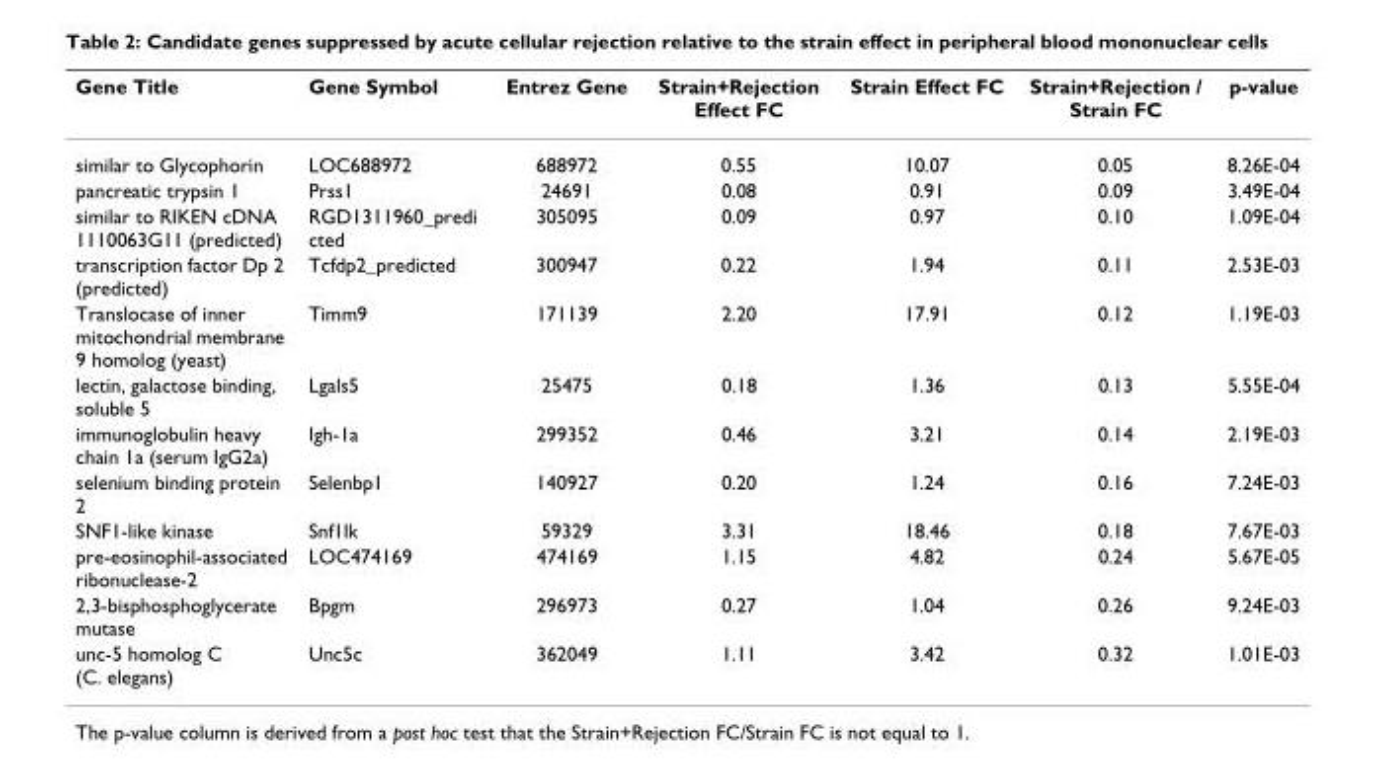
<table><thead><tr><td>Gene Title</td><td>Gene Symbol</td><td>Entrez Gene</td><td>Strain+Rejection Effect FC</td><td>Strain Effect FC</td><td>Strain+Rejection / Strain FC</td><td>p-value</td></tr></thead><tbody><tr><td>similar to Glycophorin</td><td>LOC688972</td><td>688972</td><td>0.55</td><td>10.07</td><td>0.05</td><td>8.26E-04</td></tr><tr><td>pancreatic trypsin 1</td><td>Prss1</td><td>24691</td><td>0.08</td><td>0.91</td><td>0.09</td><td>3.49E-04</td></tr><tr><td>similar to RIKEN cDNA 1110063G11 (predicted)</td><td>RGD1311960_predi cted</td><td>305095</td><td>0.09</td><td>0.97</td><td>0.10</td><td>1.09E-04</td></tr><tr><td>transcription factor Dp 2 (predicted)</td><td>Tcfdp2_predicted</td><td>300947</td><td>0.22</td><td>1.94</td><td>0.11</td><td>2.53E-03</td></tr><tr><td>Translocase of inner mitochondrial membrane 9 homolog (yeast)</td><td>Timm9</td><td>171139</td><td>2.20</td><td>17.91</td><td>0.12</td><td>1.19E-03</td></tr><tr><td>lectin, galactose binding, soluble 5</td><td>Lgals5</td><td>25475</td><td>0.18</td><td>1.36</td><td>0.13</td><td>5.55E-04</td></tr><tr><td>immunoglobulin heavy chain 1a (serum IgG2a)</td><td>Igh-1a</td><td>299352</td><td>0.46</td><td>3.21</td><td>0.14</td><td>2.19E-03</td></tr><tr><td>selenium binding protein 2</td><td>Selenbp1</td><td>140927</td><td>0.20</td><td>1.24</td><td>0.16</td><td>7.24E-03</td></tr><tr><td>SNF1-like kinase</td><td>Snf1lk</td><td>59329</td><td>3.31</td><td>18.46</td><td>0.18</td><td>7.67E-03</td></tr><tr><td>pre-eosinophil-associated ribonuclease-2</td><td>LOC474169</td><td>474169</td><td>1.15</td><td>4.82</td><td>0.24</td><td>5.67E-05</td></tr><tr><td>2,3-bisphosphoglycerate mutase</td><td>Bpgm</td><td>296973</td><td>0.27</td><td>1.04</td><td>0.26</td><td>9.24E-03</td></tr><tr><td>unc-5 homolog C (C. elegans)</td><td>Unc5c</td><td>362049</td><td>1.11</td><td>3.42</td><td>0.32</td><td>1.01E-03</td></tr></tbody></table>